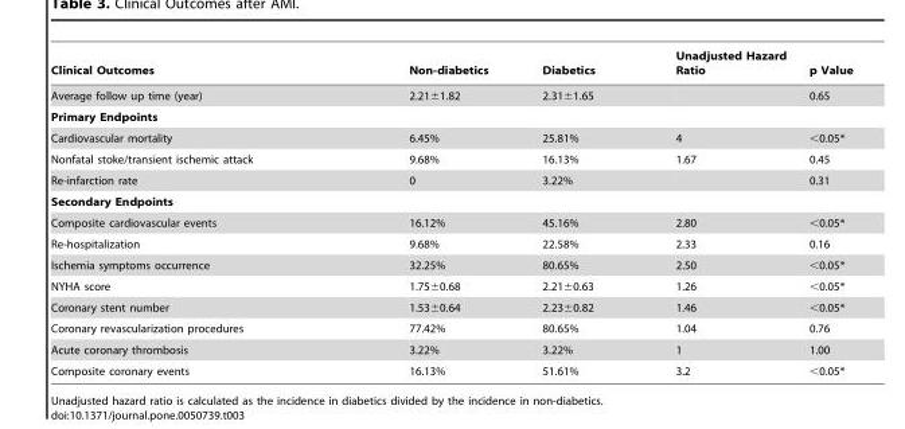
<table><thead><tr><td>Clinical Outcomes</td><td>Non-diabetics</td><td>Diabetics</td><td>Unadjusted Hazard Ratio</td><td>p Value</td></tr></thead><tbody><tr><td>Average follow up time (year)</td><td>2.21±1.82</td><td>2.31±1.65</td><td></td><td>0.65</td></tr><tr><td colspan="5">Primary Endpoints</td></tr><tr><td>Cardiovascular mortality</td><td>6.45%</td><td>25.81%</td><td>4</td><td>&lt;0.05*</td></tr><tr><td>Nonfatal stoke/transient ischemic attack</td><td>9.68%</td><td>16.13%</td><td>1.67</td><td>0.45</td></tr><tr><td>Re-infarction rate</td><td>0</td><td>3.22%</td><td></td><td>0.31</td></tr><tr><td colspan="5">Secondary Endpoints</td></tr><tr><td>Composite cardiovascular events</td><td>16.12%</td><td>45.16%</td><td>2.80</td><td>&lt;0.05*</td></tr><tr><td>Re-hospitalization</td><td>9.68%</td><td>22.58%</td><td>2.33</td><td>0.16</td></tr><tr><td>Ischemia symptoms occurrence</td><td>32.25%</td><td>80.65%</td><td>2.50</td><td>&lt;0.05*</td></tr><tr><td>NYHA score</td><td>1.75±0.68</td><td>2.21±0.63</td><td>1.26</td><td>&lt;0.05*</td></tr><tr><td>Coronary stent number</td><td>1.53±0.64</td><td>2.23±0.82</td><td>1.46</td><td>&lt;0.05*</td></tr><tr><td>Coronary revascularization procedures</td><td>77.42%</td><td>80.65%</td><td>1.04</td><td>0.76</td></tr><tr><td>Acute coronary thrombosis</td><td>3.22%</td><td>3.22%</td><td>1</td><td>1.00</td></tr><tr><td>Composite coronary events</td><td>16.13%</td><td>51.61%</td><td>3.2</td><td>&lt;0.05*</td></tr></tbody></table>